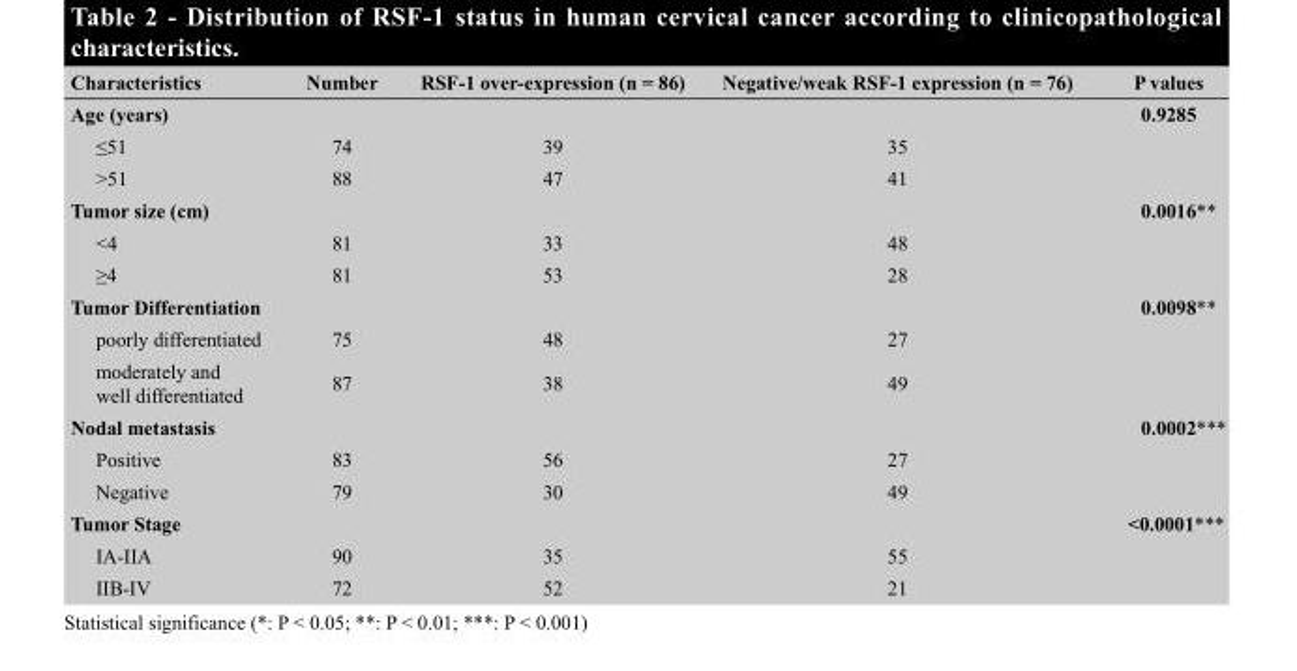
<table><thead><tr><td>Characteristics</td><td>Number</td><td>RSF-1 over-expression (n = 86)</td><td>Negative/weak RSF-1 expression (n = 76)</td><td>P values</td></tr></thead><tbody><tr><td>Age (years)</td><td></td><td></td><td></td><td>0.9285</td></tr><tr><td>≤51</td><td>74</td><td>39</td><td>35</td><td></td></tr><tr><td>&gt;51</td><td>88</td><td>47</td><td>41</td><td></td></tr><tr><td>Tumor size (cm)</td><td></td><td></td><td></td><td>0.0016**</td></tr><tr><td>&lt;4</td><td>81</td><td>33</td><td>48</td><td></td></tr><tr><td>≥4</td><td>81</td><td>53</td><td>28</td><td></td></tr><tr><td>Tumor Differentiation</td><td></td><td></td><td></td><td>0.0098**</td></tr><tr><td>poorly differentiated</td><td>75</td><td>48</td><td>27</td><td></td></tr><tr><td>moderately and well differentiated</td><td>87</td><td>38</td><td>49</td><td></td></tr><tr><td>Nodal metastasis</td><td></td><td></td><td></td><td>0.0002***</td></tr><tr><td>Positive</td><td>83</td><td>56</td><td>27</td><td></td></tr><tr><td>Negative</td><td>79</td><td>30</td><td>49</td><td></td></tr><tr><td>Tumor Stage</td><td></td><td></td><td></td><td>&lt;0.0001***</td></tr><tr><td>IA-IIA</td><td>90</td><td>35</td><td>55</td><td></td></tr><tr><td>IIB-IV</td><td>72</td><td>52</td><td>21</td><td></td></tr></tbody></table>